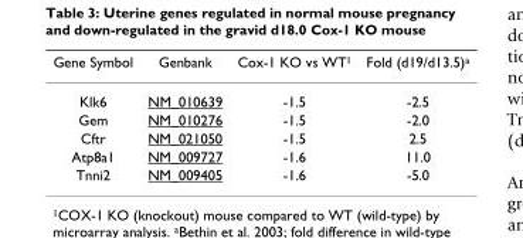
<table><thead><tr><td>Gene Symbol</td><td>Genbank</td><td>Cox-1 KO vs WT<sup>1</sup></td><td>Fold (d19/d13.5)<sup>a</sup></td></tr></thead><tbody><tr><td>Klk6</td><td>NM_010639</td><td>-1.5</td><td>-2.5</td></tr><tr><td>Gem</td><td>NM_010276</td><td>-1.5</td><td>-2.0</td></tr><tr><td>Cftr</td><td>NM_021050</td><td>-1.5</td><td>2.5</td></tr><tr><td>Atp8a1</td><td>NM_009727</td><td>-1.6</td><td>11.0</td></tr><tr><td>Tnni2</td><td>NM_009405</td><td>-1.6</td><td>-5.0</td></tr></tbody></table>